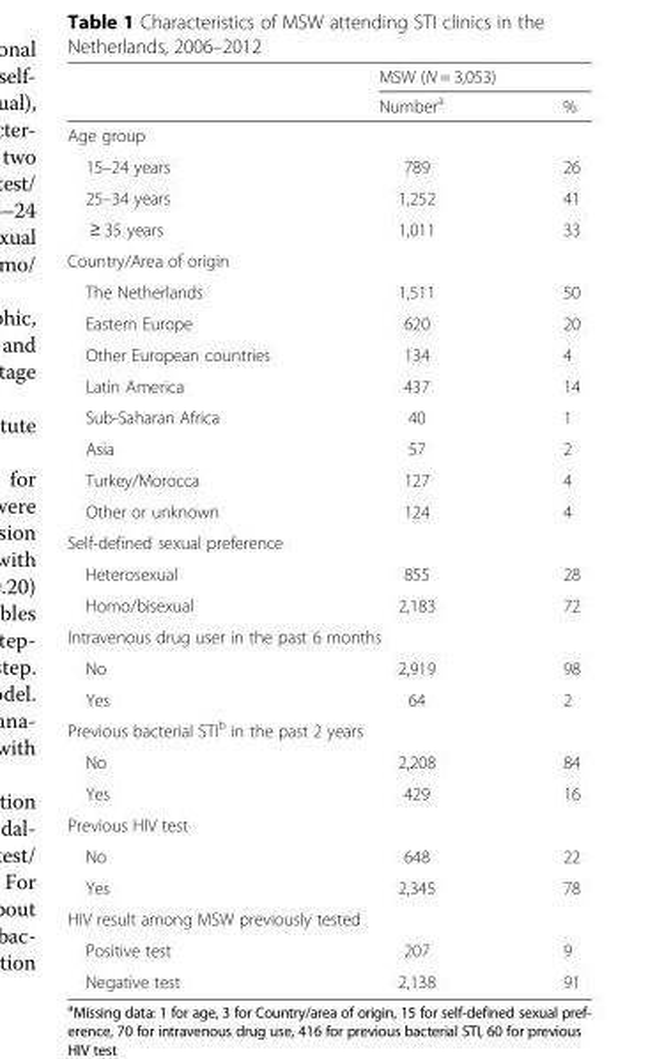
<table><thead><tr><td rowspan="2"></td><td colspan="2">MSW (N = 3,053)</td></tr><tr><td>Number<sup>a</sup></td><td>%</td></tr></thead><tbody><tr><td colspan="3">Age group</td></tr><tr><td>15–24 years</td><td>789</td><td>26</td></tr><tr><td>25–34 years</td><td>1,252</td><td>41</td></tr><tr><td>≥ 35 years</td><td>1,011</td><td>33</td></tr><tr><td colspan="3">Country/Area of origin</td></tr><tr><td>The Netherlands</td><td>1,511</td><td>50</td></tr><tr><td>Eastern Europe</td><td>620</td><td>20</td></tr><tr><td>Other European countries</td><td>134</td><td>4</td></tr><tr><td>Latin America</td><td>437</td><td>14</td></tr><tr><td>Sub-Saharan Africa</td><td>40</td><td>1</td></tr><tr><td>Asia</td><td>57</td><td>2</td></tr><tr><td>Turkey/Morocca</td><td>127</td><td>4</td></tr><tr><td>Other or unknown</td><td>124</td><td>4</td></tr><tr><td colspan="3">Self-defined sexual preference</td></tr><tr><td>Heterosexual</td><td>855</td><td>28</td></tr><tr><td>Homo/bisexual</td><td>2,183</td><td>72</td></tr><tr><td colspan="3">Intravenous drug user in the past 6 months</td></tr><tr><td>No</td><td>2,919</td><td>98</td></tr><tr><td>Yes</td><td>64</td><td>2</td></tr><tr><td colspan="3">Previous bacterial STI<sup>b</sup> in the past 2 years</td></tr><tr><td>No</td><td>2,208</td><td>84</td></tr><tr><td>Yes</td><td>429</td><td>16</td></tr><tr><td colspan="3">Previous HIV test</td></tr><tr><td>No</td><td>648</td><td>22</td></tr><tr><td>Yes</td><td>2,345</td><td>78</td></tr><tr><td colspan="3">HIV result among MSW previously tested</td></tr><tr><td>Positive test</td><td>207</td><td>9</td></tr><tr><td>Negative test</td><td>2,138</td><td>91</td></tr></tbody></table>